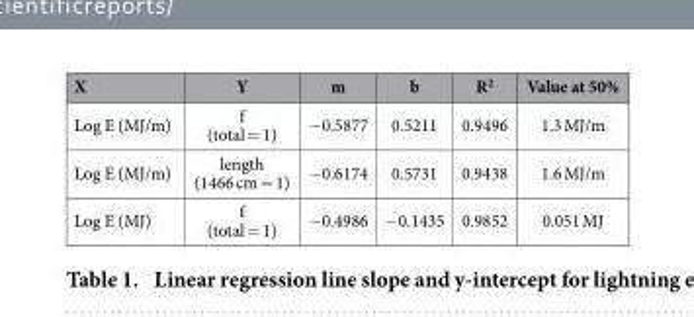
<table><thead><tr><td>X</td><td>Y</td><td>m</td><td>b</td><td>R<sup>2</sup></td><td>Value at 50%</td></tr></thead><tbody><tr><td>Log E (MJ/m)</td><td>f (total = 1)</td><td>− 0.5877</td><td>0.5211</td><td>0.9496</td><td>1.3 MJ/m</td></tr><tr><td>Log E (MJ/m)</td><td>length (1466 cm = 1)</td><td>− 0.6174</td><td>0.5731</td><td>0.9438</td><td>1.6 MJ/m</td></tr><tr><td>Log E (MJ)</td><td>f (total = 1)</td><td>− 0.4986</td><td>−0.1435</td><td>0.9852</td><td>0.051 MJ</td></tr></tbody></table>